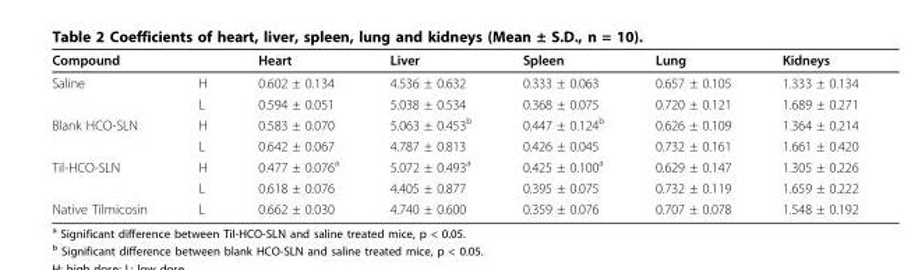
<table><thead><tr><td colspan="2">Compound</td><td rowspan="2">Heart 0.602 ± 0.134</td><td rowspan="2">Liver 4.536 ± 0.632</td><td rowspan="2">Spleen 0.333 ± 0.063</td><td rowspan="2">Lung 0.657 ± 0.105</td><td rowspan="2">Kidneys 1.333 ± 0.134</td></tr><tr><td>Saline</td><td>H</td></tr></thead><tbody><tr><td></td><td>L</td><td>0.594 ± 0.051</td><td>5.038 ± 0.534</td><td>0.368 ± 0.075</td><td>0.720 ± 0.121</td><td>1.689 ± 0.271</td></tr><tr><td rowspan="2">Blank HCO-SLN</td><td>H</td><td>0.583 ± 0.070</td><td>5.063 ± 0.453<sup>b</sup></td><td>0.447 ± 0.124<sup>b</sup></td><td>0.626 ± 0.109</td><td>1.364 ± 0.214</td></tr><tr><td>L</td><td>0.642 ± 0.067</td><td>4.787 ± 0.813</td><td>0.426 ± 0.045</td><td>0.732 ± 0.161</td><td>1.661 ± 0.420</td></tr><tr><td rowspan="2">Til-HCO-SLN</td><td>H</td><td>0.477 ± 0.076<sup>a</sup></td><td>5.072 ± 0.493<sup>a</sup></td><td>0.425 ± 0.100<sup>a</sup></td><td>0.629 ± 0.147</td><td>1.305 ± 0.226</td></tr><tr><td>L</td><td>0.618 ± 0.076</td><td>4.405 ± 0.877</td><td>0.395 ± 0.075</td><td>0.732 ± 0.119</td><td>1.659 ± 0.222</td></tr><tr><td>Native Tilmicosin</td><td>L</td><td>0.662 ± 0.030</td><td>4.740 ± 0.600</td><td>0.359 ± 0.076</td><td>0.707 ± 0.078</td><td>1.548 ± 0.192</td></tr></tbody></table>